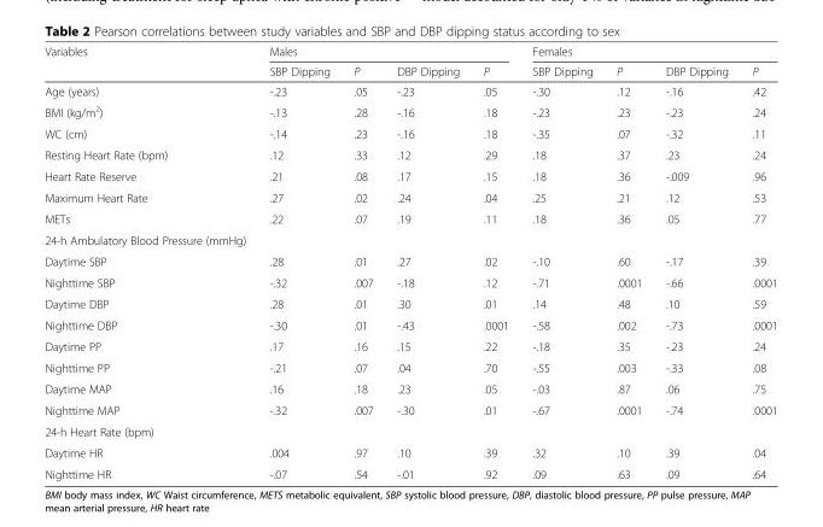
<table><thead><tr><td rowspan="2">Variables</td><td colspan="4">Males</td><td colspan="4">Females</td></tr><tr><td>SBP Dipping</td><td>P</td><td>DBP Dipping</td><td>P</td><td>SBP Dipping</td><td>P</td><td>DBP Dipping</td><td>P</td></tr></thead><tbody><tr><td>Age (years)</td><td>-.23</td><td>.05</td><td>-.23</td><td>.05</td><td>-.30</td><td>.12</td><td>-.16</td><td>.42</td></tr><tr><td>BMI (kg/m<sup>2</sup>)</td><td>-.13</td><td>.28</td><td>-.16</td><td>.18</td><td>-.23</td><td>.23</td><td>-.23</td><td>.24</td></tr><tr><td>WC (cm)</td><td>-.14</td><td>.23</td><td>-.16</td><td>.18</td><td>-.35</td><td>.07</td><td>-.32</td><td>.11</td></tr><tr><td>Resting Heart Rate (bpm)</td><td>.12</td><td>.33</td><td>.12</td><td>.29</td><td>.18</td><td>.37</td><td>.23</td><td>.24</td></tr><tr><td>Heart Rate Reserve</td><td>.21</td><td>.08</td><td>.17</td><td>.15</td><td>.18</td><td>.36</td><td>-.009</td><td>.96</td></tr><tr><td>Maximum Heart Rate</td><td>.27</td><td>.02</td><td>.24</td><td>.04</td><td>.25</td><td>.21</td><td>.12</td><td>.53</td></tr><tr><td>METs</td><td>.22</td><td>.07</td><td>.19</td><td>.11</td><td>.18</td><td>.36</td><td>.05</td><td>.77</td></tr><tr><td colspan="9">24-h Ambulatory Blood Pressure (mmHg)</td></tr><tr><td>Daytime SBP</td><td>.28</td><td>.01</td><td>.27</td><td>.02</td><td>-.10</td><td>.60</td><td>-.17</td><td>.39</td></tr><tr><td>Nighttime SBP</td><td>-.32</td><td>.007</td><td>-.18</td><td>.12</td><td>-.71</td><td>.0001</td><td>-.66</td><td>.0001</td></tr><tr><td>Daytime DBP</td><td>.28</td><td>.01</td><td>.30</td><td>.01</td><td>.14</td><td>.48</td><td>.10</td><td>.59</td></tr><tr><td>Nighttime DBP</td><td>-.30</td><td>.01</td><td>-.43</td><td>.0001</td><td>-.58</td><td>.002</td><td>-.73</td><td>.0001</td></tr><tr><td>Daytime PP</td><td>.17</td><td>.16</td><td>.15</td><td>.22</td><td>-.18</td><td>.35</td><td>-.23</td><td>.24</td></tr><tr><td>Nighttime PP</td><td>-.21</td><td>.07</td><td>.04</td><td>.70</td><td>-.55</td><td>.003</td><td>-.33</td><td>.08</td></tr><tr><td>Daytime MAP</td><td>.16</td><td>.18</td><td>.23</td><td>.05</td><td>-.03</td><td>.87</td><td>.06</td><td>.75</td></tr><tr><td>Nighttime MAP</td><td>-.32</td><td>.007</td><td>-.30</td><td>.01</td><td>-.67</td><td>.0001</td><td>-.74</td><td>.0001</td></tr><tr><td colspan="9">24-h Heart Rate (bpm)</td></tr><tr><td>Daytime HR</td><td>.004</td><td>.97</td><td>.10</td><td>.39</td><td>.32</td><td>.10</td><td>.39</td><td>.04</td></tr><tr><td>Nighttime HR</td><td>-.07</td><td>.54</td><td>-.01</td><td>.92</td><td>.09</td><td>.63</td><td>.09</td><td>.64</td></tr></tbody></table>